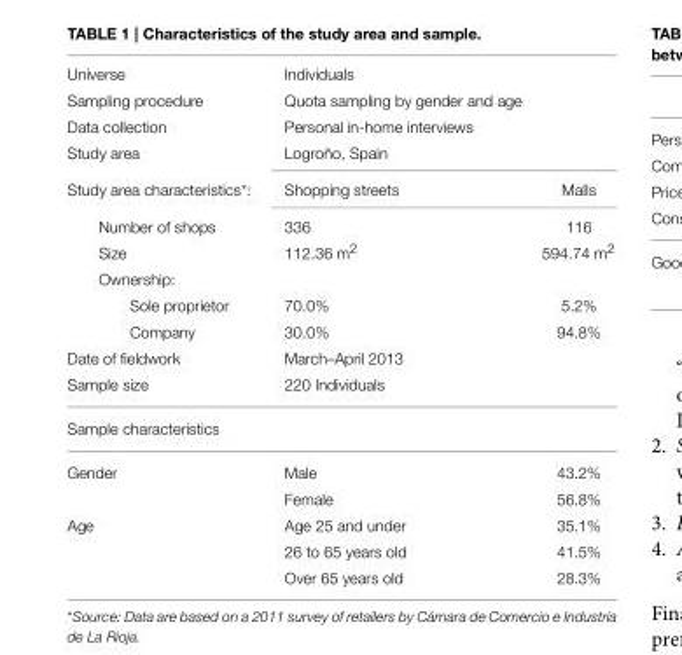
<table><tbody><tr><td>Universe</td><td colspan="2">Individuals</td></tr><tr><td>Sampling procedure</td><td colspan="2">Quota sampling by gender and age</td></tr><tr><td>Data collection</td><td colspan="2">Personal in-home interviews</td></tr><tr><td>Study area</td><td colspan="2">Logroño, Spain</td></tr><tr><td>Study area characteristics*:</td><td>Shopping streets</td><td>Malls</td></tr><tr><td>Number of shops</td><td>336</td><td>116</td></tr><tr><td>Size</td><td>112.36 m<sup>2</sup></td><td>594.74 m<sup>2</sup></td></tr><tr><td colspan="3">Ownership:</td></tr><tr><td>Sole proprietor</td><td>70.0%</td><td>5.2%</td></tr><tr><td>Company</td><td>30.0%</td><td>94.8%</td></tr><tr><td>Date of fieldwork</td><td colspan="2">March–April 2013</td></tr><tr><td>Sample size</td><td colspan="2">220 Individuals</td></tr><tr><td colspan="3">Sample characteristics</td></tr><tr><td rowspan="2">Gender</td><td>Male</td><td>43.2%</td></tr><tr><td>Female</td><td>56.8%</td></tr><tr><td rowspan="3">Age</td><td>Age 25 and under</td><td>35.1%</td></tr><tr><td>26 to 65 years old</td><td>41.5%</td></tr><tr><td>Over 65 years old</td><td>28.3%</td></tr></tbody></table>